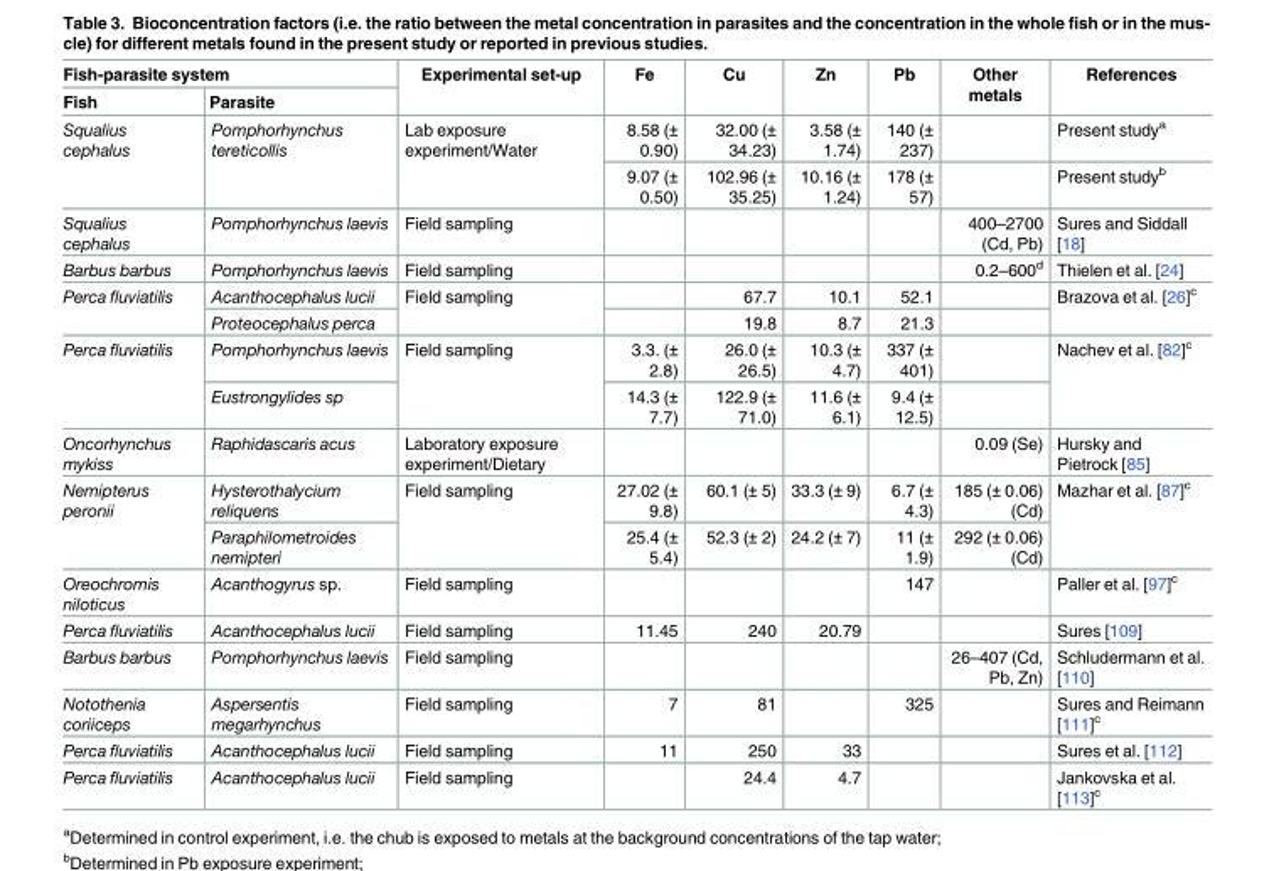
<table><thead><tr><td colspan="2">Fish-parasite system</td><td rowspan="2">Experimental set-up</td><td rowspan="2">Fe</td><td rowspan="2">Cu</td><td rowspan="2">Zn</td><td rowspan="2">Pb</td><td rowspan="2">Other metals</td><td rowspan="2">References</td></tr><tr><td>Fish</td><td>Parasite</td></tr></thead><tbody><tr><td rowspan="2">Squalius cephalus</td><td rowspan="2">Pomphorhynchus tereticollis</td><td rowspan="2">Lab exposure experiment/Water</td><td>8.58 (± 0.90)</td><td>32.00 (± 34.23)</td><td>3.58 (± 1.74)</td><td>140 (± 237)</td><td></td><td>Present study<sup>a</sup></td></tr><tr><td>9.07 (± 0.50)</td><td>102.96 (± 35.25)</td><td>10.16 (± 1.24)</td><td>178 (± 57)</td><td></td><td>Present study<sup>b</sup></td></tr><tr><td>Squalius cephalus</td><td>Pomphorhynchus laevis</td><td>Field sampling</td><td></td><td></td><td></td><td></td><td>400–2700 (Cd, Pb)</td><td>Sures and Siddall [18]</td></tr><tr><td>Barbus barbus</td><td>Pomphorhynchus laevis</td><td>Field sampling</td><td></td><td></td><td></td><td></td><td>0.2–600<sup>d</sup></td><td>Thielen et al. [24]</td></tr><tr><td rowspan="2">Perca fluviatilis</td><td>Acanthocephalus lucii</td><td rowspan="2">Field sampling</td><td></td><td>67.7</td><td>10.1</td><td>52.1</td><td></td><td rowspan="2">Brazova et al. [26]<sup>c</sup></td></tr><tr><td>Proteocephalus perca</td><td></td><td>19.8</td><td>8.7</td><td>21.3</td><td></td></tr><tr><td rowspan="2">Perca fluviatilis</td><td>Pomphorhynchus laevis</td><td rowspan="2">Field sampling</td><td>3.3. (± 2.8)</td><td>26.0 (± 26.5)</td><td>10.3 (± 4.7)</td><td>337 (± 401)</td><td></td><td rowspan="2">Nachev et al. [82]<sup>c</sup></td></tr><tr><td>Eustrongylides sp</td><td>14.3 (± 7.7)</td><td>122.9 (± 71.0)</td><td>11.6 (± 6.1)</td><td>9.4 (± 12.5)</td><td></td></tr><tr><td>Oncorhynchus mykiss</td><td>Raphidascaris acus</td><td>Laboratory exposure experiment/Dietary</td><td></td><td></td><td></td><td></td><td>0.09 (Se)</td><td>Hursky and Pietrock [85]</td></tr><tr><td rowspan="2">Nemipterus peronii</td><td>Hysterothalycium reliquens</td><td rowspan="2">Field sampling</td><td>27.02 (± 9.8)</td><td>60.1 (± 5)</td><td>33.3 (± 9)</td><td>6.7 (± 4.3)</td><td>185 (± 0.06) (Cd)</td><td rowspan="2">Mazhar et al. [87]<sup>c</sup></td></tr><tr><td>Paraphilometroides nemipteri</td><td>25.4 (± 5.4)</td><td>52.3 (± 2)</td><td>24.2 (± 7)</td><td>11 (± 1.9)</td><td>292 (± 0.06) (Cd)</td></tr><tr><td>Oreochromis niloticus</td><td>Acanthogyrus sp.</td><td>Field sampling</td><td></td><td></td><td></td><td>147</td><td></td><td>Paller et al. [97]<sup>c</sup></td></tr><tr><td>Perca fluviatilis</td><td>Acanthocephalus lucii</td><td>Field sampling</td><td>11.45</td><td>240</td><td>20.79</td><td></td><td></td><td>Sures [109]</td></tr><tr><td>Barbus barbus</td><td>Pomphorhynchus laevis</td><td>Field sampling</td><td></td><td></td><td></td><td></td><td>26–407 (Cd, Pb, Zn)</td><td>Schludermann et al. [110]</td></tr><tr><td>Notothenia coriiceps</td><td>Aspersentis megarhynchus</td><td>Field sampling</td><td>7</td><td>81</td><td></td><td>325</td><td></td><td>Sures and Reimann [111]<sup>c</sup></td></tr><tr><td>Perca fluviatilis</td><td>Acanthocephalus lucii</td><td>Field sampling</td><td>11</td><td>250</td><td>33</td><td></td><td></td><td>Sures et al. [112]</td></tr><tr><td>Perca fluviatilis</td><td>Acanthocephalus lucii</td><td>Field sampling</td><td></td><td>24.4</td><td>4.7</td><td></td><td></td><td>Jankovska et al. [113]<sup>c</sup></td></tr></tbody></table>